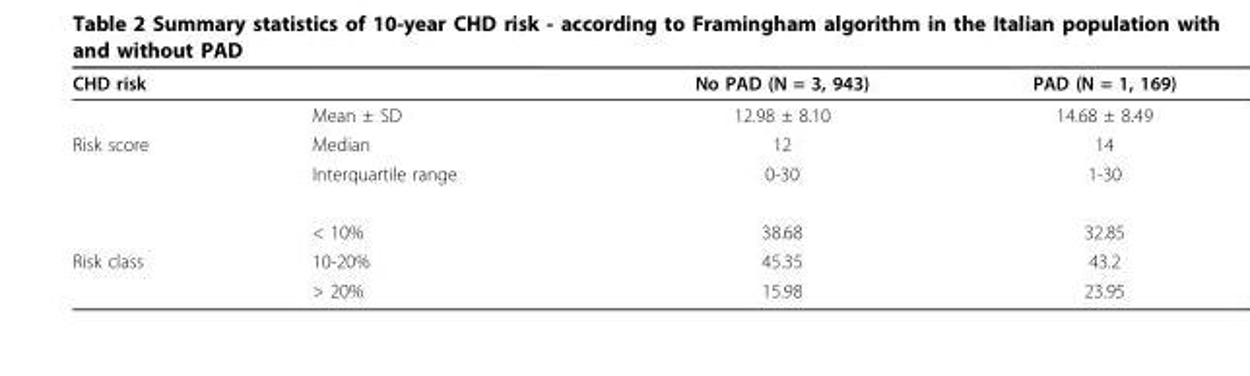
<table><thead><tr><td>CHD risk</td><td></td><td>No PAD (N = 3, 943)</td><td>PAD (N = 1, 169)</td></tr></thead><tbody><tr><td></td><td>Mean ± SD</td><td>12.98 ± 8.10</td><td>14.68 ± 8.49</td></tr><tr><td rowspan="3">Risk score</td><td>Median</td><td>12</td><td>14</td></tr><tr><td>Interquartile range</td><td>0-30</td><td>1-30</td></tr><tr><td>&lt; 10%</td><td>38.68</td><td>32.85</td></tr><tr><td rowspan="2">Risk class</td><td>10-20%</td><td>45.35</td><td>43.2</td></tr><tr><td>&gt; 20%</td><td>15.98</td><td>23.95</td></tr></tbody></table>